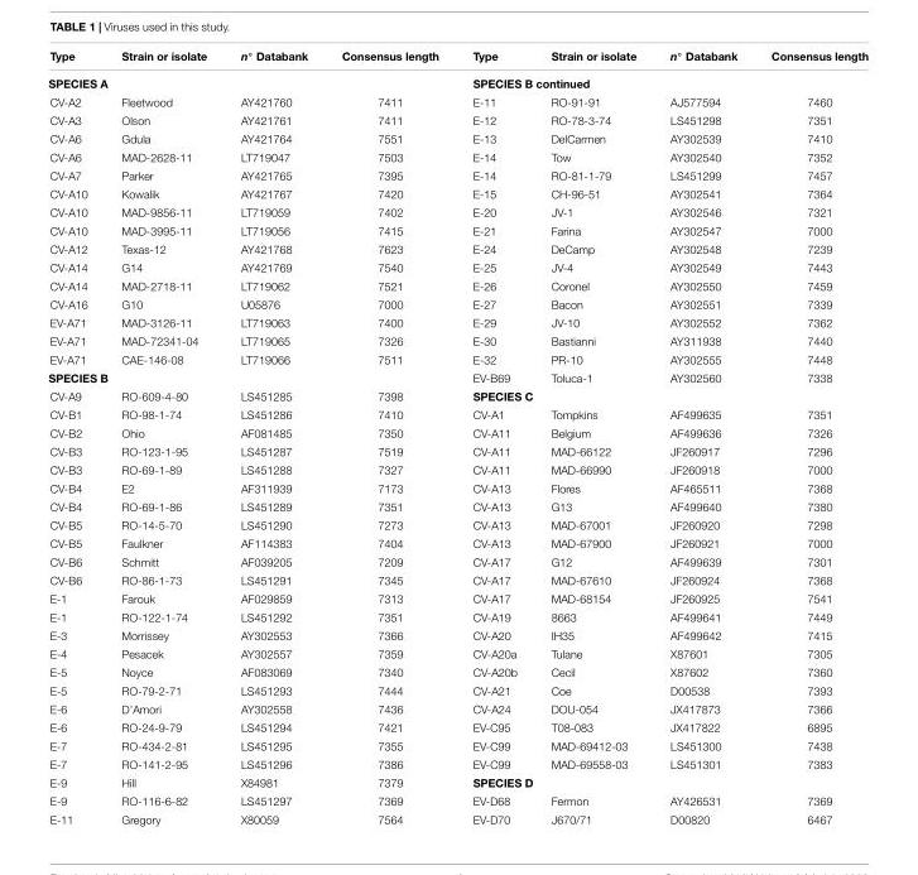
<table><thead><tr><td>Type</td><td>Strain or isolate</td><td>n◦ Databank</td><td>Consensus length</td><td>Type</td><td>Strain or isolate</td><td>n◦ Databank</td><td>Consensus length</td></tr></thead><tbody><tr><td colspan="4">SPECIES A</td><td colspan="4">SPECIES B continued</td></tr><tr><td>CV-A2</td><td>Fleetwood</td><td>AY421760</td><td>7411</td><td>E-11</td><td>RO-91-91</td><td>AJ577594</td><td>7460</td></tr><tr><td>CV-A3</td><td>Olson</td><td>AY421761</td><td>7411</td><td>E-12</td><td>RO-78-3-74</td><td>LS451298</td><td>7351</td></tr><tr><td>CV-A6</td><td>Gdula</td><td>AY421764</td><td>7551</td><td>E-13</td><td>DelCarmen</td><td>AY302539</td><td>7410</td></tr><tr><td>CV-A6</td><td>MAD-2628-11</td><td>LT719047</td><td>7503</td><td>E-14</td><td>Tow</td><td>AY302540</td><td>7352</td></tr><tr><td>CV-A7</td><td>Parker</td><td>AY421765</td><td>7395</td><td>E-14</td><td>RO-81-1-79</td><td>LS451299</td><td>7457</td></tr><tr><td>CV-A10</td><td>Kowalik</td><td>AY421767</td><td>7420</td><td>E-15</td><td>CH-96-51</td><td>AY302541</td><td>7364</td></tr><tr><td>CV-A10</td><td>MAD-9856-11</td><td>LT719059</td><td>7402</td><td>E-20</td><td>JV-1</td><td>AY302546</td><td>7321</td></tr><tr><td>CV-A10</td><td>MAD-3995-11</td><td>LT719056</td><td>7415</td><td>E-21</td><td>Farina</td><td>AY302547</td><td>7000</td></tr><tr><td>CV-A12</td><td>Texas-12</td><td>AY421768</td><td>7623</td><td>E-24</td><td>DeCamp</td><td>AY302548</td><td>7239</td></tr><tr><td>CV-A14</td><td>G14</td><td>AY421769</td><td>7540</td><td>E-25</td><td>JV-4</td><td>AY302549</td><td>7443</td></tr><tr><td>CV-A14</td><td>MAD-2718-11</td><td>LT719062</td><td>7521</td><td>E-26</td><td>Coronel</td><td>AY302550</td><td>7459</td></tr><tr><td>CV-A16</td><td>G10</td><td>U05876</td><td>7000</td><td>E-27</td><td>Bacon</td><td>AY302551</td><td>7339</td></tr><tr><td>EV-A71</td><td>MAD-3126-11</td><td>LT719063</td><td>7400</td><td>E-29</td><td>JV-10</td><td>AY302552</td><td>7362</td></tr><tr><td>EV-A71</td><td>MAD-72341-04</td><td>LT719065</td><td>7326</td><td>E-30</td><td>Bastianni</td><td>AY311938</td><td>7440</td></tr><tr><td>EV-A71</td><td>CAE-146-08</td><td>LT719066</td><td>7511</td><td>E-32</td><td>PR-10</td><td>AY302555</td><td>7448</td></tr><tr><td colspan="4">SPECIES B</td><td>EV-B69</td><td>Toluca-1</td><td>AY302560</td><td>7338</td></tr><tr><td>CV-A9</td><td>RO-609-4-80</td><td>LS451285</td><td>7398</td><td colspan="4">SPECIES C</td></tr><tr><td>CV-B1</td><td>RO-98-1-74</td><td>LS451286</td><td>7410</td><td>CV-A1</td><td>Tompkins</td><td>AF499635</td><td>7351</td></tr><tr><td>CV-B2</td><td>Ohio</td><td>AF081485</td><td>7350</td><td>CV-A11</td><td>Belgium</td><td>AF499636</td><td>7326</td></tr><tr><td>CV-B3</td><td>RO-123-1-95</td><td>LS451287</td><td>7519</td><td>CV-A11</td><td>MAD-66122</td><td>JF260917</td><td>7296</td></tr><tr><td>CV-B3</td><td>RO-69-1-89</td><td>LS451288</td><td>7327</td><td>CV-A11</td><td>MAD-66990</td><td>JF260918</td><td>7000</td></tr><tr><td>CV-B4</td><td>E2</td><td>AF311939</td><td>7173</td><td>CV-A13</td><td>Flores</td><td>AF465511</td><td>7368</td></tr><tr><td>CV-B4</td><td>RO-69-1-86</td><td>LS451289</td><td>7351</td><td>CV-A13</td><td>G13</td><td>AF499640</td><td>7380</td></tr><tr><td>CV-B5</td><td>RO-14-5-70</td><td>LS451290</td><td>7273</td><td>CV-A13</td><td>MAD-67001</td><td>JF260920</td><td>7298</td></tr><tr><td>CV-B5</td><td>Faulkner</td><td>AF114383</td><td>7404</td><td>CV-A13</td><td>MAD-67900</td><td>JF260921</td><td>7000</td></tr><tr><td>CV-B6</td><td>Schmitt</td><td>AF039205</td><td>7209</td><td>CV-A17</td><td>G12</td><td>AF499639</td><td>7301</td></tr><tr><td>CV-B6</td><td>RO-86-1-73</td><td>LS451291</td><td>7345</td><td>CV-A17</td><td>MAD-67610</td><td>JF260924</td><td>7368</td></tr><tr><td>E-1</td><td>Farouk</td><td>AF029859</td><td>7313</td><td>CV-A17</td><td>MAD-68154</td><td>JF260925</td><td>7541</td></tr><tr><td>E-1</td><td>RO-122-1-74</td><td>LS451292</td><td>7351</td><td>CV-A19</td><td>8663</td><td>AF499641</td><td>7449</td></tr><tr><td>E-3</td><td>Morrissey</td><td>AY302553</td><td>7366</td><td>CV-A20</td><td>IH35</td><td>AF499642</td><td>7415</td></tr><tr><td>E-4</td><td>Pesacek</td><td>AY302557</td><td>7359</td><td>CV-A20a</td><td>Tulane</td><td>X87601</td><td>7305</td></tr><tr><td>E-5</td><td>Noyce</td><td>AF083069</td><td>7340</td><td>CV-A20b</td><td>Cecil</td><td>X87602</td><td>7360</td></tr><tr><td>E-5</td><td>RO-79-2-71</td><td>LS451293</td><td>7444</td><td>CV-A21</td><td>Coe</td><td>D00538</td><td>7393</td></tr><tr><td>E-6</td><td>D’Amori</td><td>AY302558</td><td>7436</td><td>CV-A24</td><td>DOU-054</td><td>JX417873</td><td>7366</td></tr><tr><td>E-6</td><td>RO-24-9-79</td><td>LS451294</td><td>7421</td><td>EV-C95</td><td>T08-083</td><td>JX417822</td><td>6895</td></tr><tr><td>E-7</td><td>RO-434-2-81</td><td>LS451295</td><td>7355</td><td>EV-C99</td><td>MAD-69412-03</td><td>LS451300</td><td>7438</td></tr><tr><td>E-7</td><td>RO-141-2-95</td><td>LS451296</td><td>7386</td><td>EV-C99</td><td>MAD-69558-03</td><td>LS451301</td><td>7383</td></tr><tr><td>E-9</td><td>Hill</td><td>X84981</td><td>7379</td><td colspan="4">SPECIES D</td></tr><tr><td>E-9</td><td>RO-116-6-82</td><td>LS451297</td><td>7369</td><td>EV-D68</td><td>Fermon</td><td>AY426531</td><td>7369</td></tr><tr><td>E-11</td><td>Gregory</td><td>X80059</td><td>7564</td><td>EV-D70</td><td>J670/71</td><td>D00820</td><td>6467</td></tr></tbody></table>